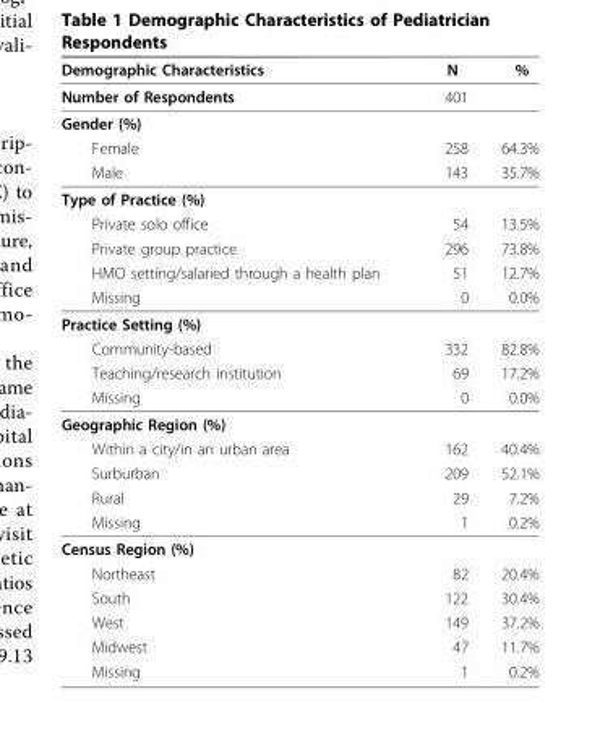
<table><thead><tr><td>Demographic Characteristics</td><td>N</td><td>%</td></tr></thead><tbody><tr><td>Number of Respondents</td><td>401</td><td></td></tr><tr><td colspan="3">Gender (%)</td></tr><tr><td>Female</td><td>258</td><td>64.3%</td></tr><tr><td>Male</td><td>143</td><td>35.7%</td></tr><tr><td colspan="3">Type of Practice (%)</td></tr><tr><td>Private solo office</td><td>54</td><td>13.5%</td></tr><tr><td>Private group practice</td><td>296</td><td>73.8%</td></tr><tr><td>HMO setting/salaried through a health plan</td><td>51</td><td>12.7%</td></tr><tr><td>Missing</td><td>0</td><td>0.0%</td></tr><tr><td colspan="3">Practice Setting (%)</td></tr><tr><td>Community-based</td><td>332</td><td>82.8%</td></tr><tr><td>Teaching/research institution</td><td>69</td><td>17.2%</td></tr><tr><td>Missing</td><td>0</td><td>0.0%</td></tr><tr><td colspan="3">Geographic Region (%)</td></tr><tr><td>Within a city/in an urban area</td><td>162</td><td>40.4%</td></tr><tr><td>Surburban</td><td>209</td><td>52.1%</td></tr><tr><td>Rural</td><td>29</td><td>7.2%</td></tr><tr><td>Missing</td><td>1</td><td>0.2%</td></tr><tr><td colspan="3">Census Region (%)</td></tr><tr><td>Northeast</td><td>82</td><td>20.4%</td></tr><tr><td>South</td><td>122</td><td>30.4%</td></tr><tr><td>West</td><td>149</td><td>37.2%</td></tr><tr><td>Midwest</td><td>47</td><td>11.7%</td></tr><tr><td>Missing</td><td>1</td><td>0.2%</td></tr></tbody></table>